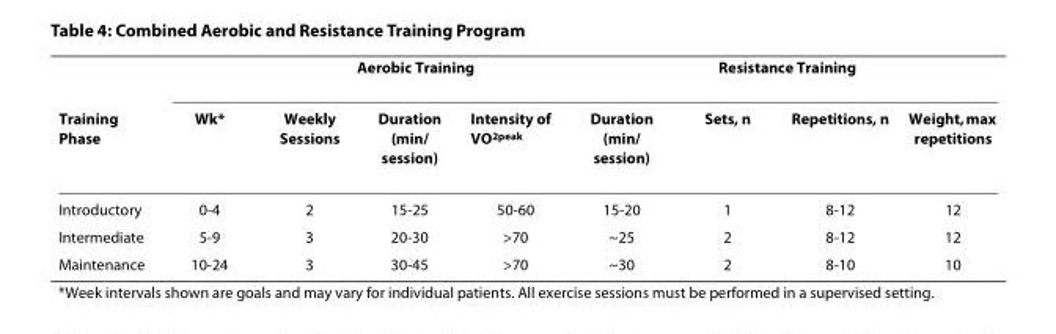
<table><thead><tr><td rowspan="2">Training Phase</td><td rowspan="2">Wk*</td><td colspan="3">Aerobic Training</td><td colspan="4">Resistance Training</td></tr><tr><td>Weekly Sessions</td><td>Duration (min/ session)</td><td>Intensity of VO<sub>2peak</sub></td><td>Duration (min/ session)</td><td>Sets, n</td><td>Repetitions, n</td><td>Weight, max repetitions</td></tr></thead><tbody><tr><td>Introductory</td><td>0-4</td><td>2</td><td>15-25</td><td>50-60</td><td>15-20</td><td>1</td><td>8-12</td><td>12</td></tr><tr><td>Intermediate</td><td>5-9</td><td>3</td><td>20-30</td><td>&gt;70</td><td>~25</td><td>2</td><td>8-12</td><td>12</td></tr><tr><td>Maintenance</td><td>10-24</td><td>3</td><td>30-45</td><td>&gt;70</td><td>~30</td><td>2</td><td>8-10</td><td>10</td></tr></tbody></table>